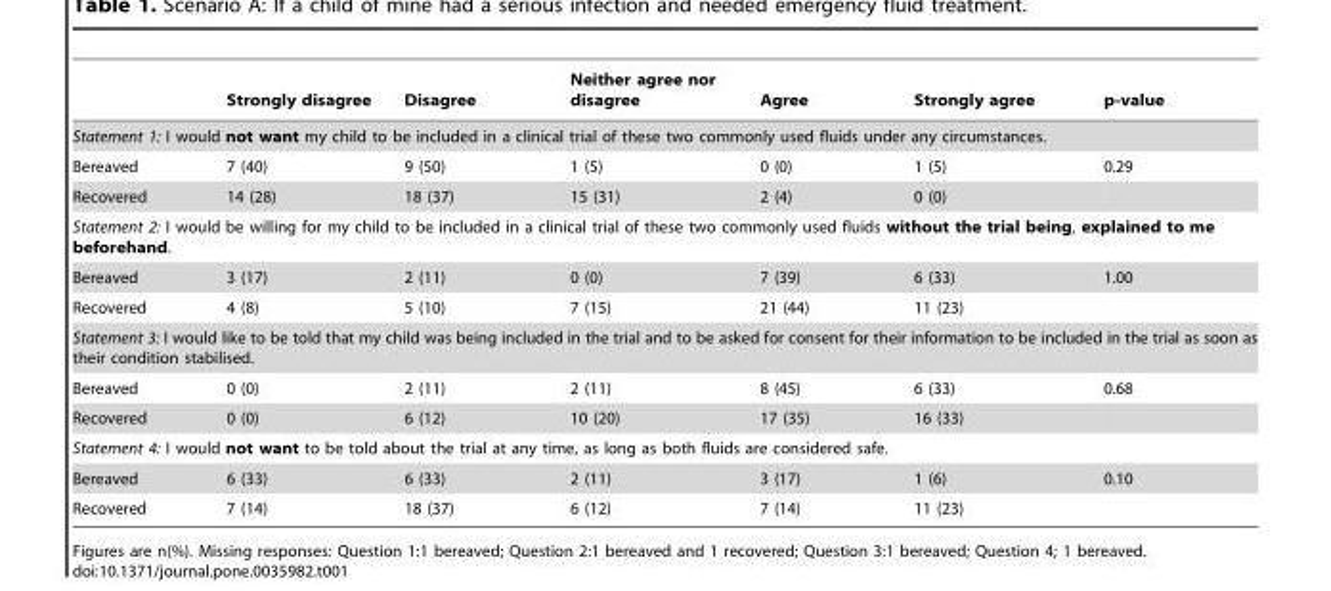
<table><thead><tr><td></td><td>Strongly disagree</td><td>Disagree</td><td>Neither agree nor disagree</td><td>Agree</td><td>Strongly agree</td><td>p-value</td></tr></thead><tbody><tr><td colspan="7">Statement 1: I would not want my child to be included in a clinical trial of these two commonly used fluids under any circumstances.</td></tr><tr><td>Bereaved</td><td>7 (40)</td><td>9 (50)</td><td>1 (5)</td><td>0 (0)</td><td>1 (5)</td><td>0.29</td></tr><tr><td>Recovered</td><td>14 (28)</td><td>18 (37)</td><td>15 (31)</td><td>2 (4)</td><td>0 (0)</td><td></td></tr><tr><td colspan="7">Statement 2: I would be willing for my child to be included in a clinical trial of these two commonly used fluids without the trial being, explained to me beforehand.</td></tr><tr><td>Bereaved</td><td>3 (17)</td><td>2 (11)</td><td>0 (0)</td><td>7 (39)</td><td>6 (33)</td><td>1.00</td></tr><tr><td>Recovered</td><td>4 (8)</td><td>5 (10)</td><td>7 (15)</td><td>21 (44)</td><td>11 (23)</td><td></td></tr><tr><td colspan="7">Statement 3: I would like to be told that my child was being included in the trial and to be asked for consent for their information to be included in the trial as soon as their condition stabilised.</td></tr><tr><td>Bereaved</td><td>0 (0)</td><td>2 (11)</td><td>2 (11)</td><td>8 (45)</td><td>6 (33)</td><td>0.68</td></tr><tr><td>Recovered</td><td>0 (0)</td><td>6 (12)</td><td>10 (20)</td><td>17 (35)</td><td>16 (33)</td><td></td></tr><tr><td colspan="7">Statement 4: I would not want to be told about the trial at any time, as long as both fluids are considered safe.</td></tr><tr><td>Bereaved</td><td>6 (33)</td><td>6 (33)</td><td>2 (11)</td><td>3 (17)</td><td>1 (6)</td><td>0.10</td></tr><tr><td>Recovered</td><td>7 (14)</td><td>18 (37)</td><td>6 (12)</td><td>7 (14)</td><td>11 (23)</td><td></td></tr></tbody></table>